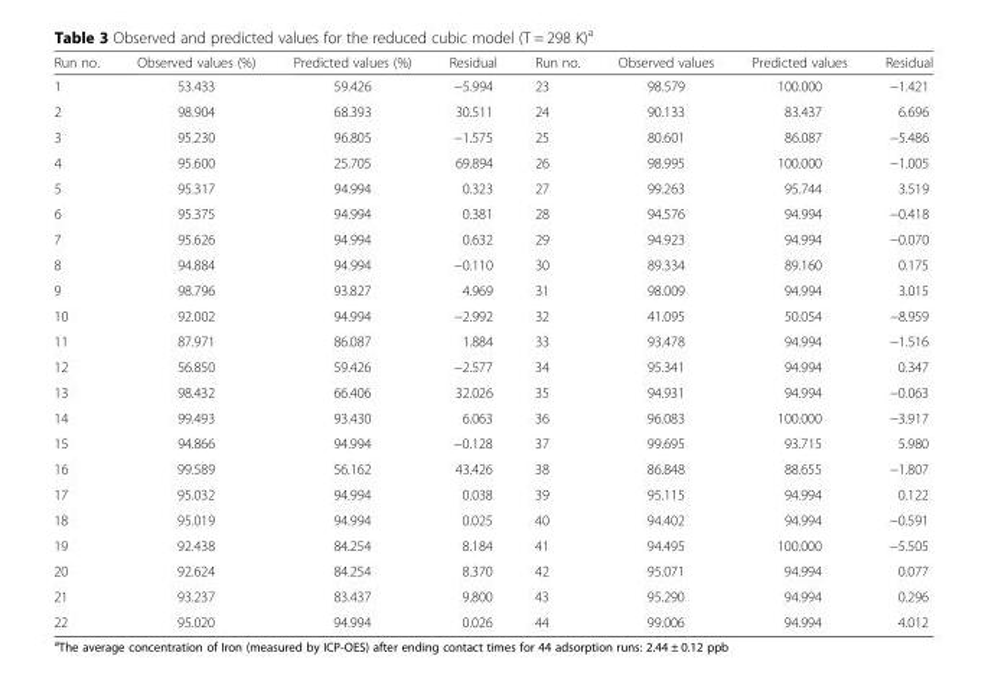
<table><thead><tr><td>Run no.</td><td>Observed values (%)</td><td>Predicted values (%)</td><td>Residual</td><td>Run no.</td><td>Observed values</td><td>Predicted values</td><td>Residual</td></tr></thead><tbody><tr><td>1</td><td>53.433</td><td>59.426</td><td>−5.994</td><td>23</td><td>98.579</td><td>100.000</td><td>−1.421</td></tr><tr><td>2</td><td>98.904</td><td>68.393</td><td>30.511</td><td>24</td><td>90.133</td><td>83.437</td><td>6.696</td></tr><tr><td>3</td><td>95.230</td><td>96.805</td><td>−1.575</td><td>25</td><td>80.601</td><td>86.087</td><td>−5.486</td></tr><tr><td>4</td><td>95.600</td><td>25.705</td><td>69.894</td><td>26</td><td>98.995</td><td>100.000</td><td>−1.005</td></tr><tr><td>5</td><td>95.317</td><td>94.994</td><td>0.323</td><td>27</td><td>99.263</td><td>95.744</td><td>3.519</td></tr><tr><td>6</td><td>95.375</td><td>94.994</td><td>0.381</td><td>28</td><td>94.576</td><td>94.994</td><td>−0.418</td></tr><tr><td>7</td><td>95.626</td><td>94.994</td><td>0.632</td><td>29</td><td>94.923</td><td>94.994</td><td>−0.070</td></tr><tr><td>8</td><td>94.884</td><td>94.994</td><td>−0.110</td><td>30</td><td>89.334</td><td>89.160</td><td>0.175</td></tr><tr><td>9</td><td>98.796</td><td>93.827</td><td>4.969</td><td>31</td><td>98.009</td><td>94.994</td><td>3.015</td></tr><tr><td>10</td><td>92.002</td><td>94.994</td><td>−2.992</td><td>32</td><td>41.095</td><td>50.054</td><td>−8.959</td></tr><tr><td>11</td><td>87.971</td><td>86.087</td><td>1.884</td><td>33</td><td>93.478</td><td>94.994</td><td>−1.516</td></tr><tr><td>12</td><td>56.850</td><td>59.426</td><td>−2.577</td><td>34</td><td>95.341</td><td>94.994</td><td>0.347</td></tr><tr><td>13</td><td>98.432</td><td>66.406</td><td>32.026</td><td>35</td><td>94.931</td><td>94.994</td><td>−0.063</td></tr><tr><td>14</td><td>99.493</td><td>93.430</td><td>6.063</td><td>36</td><td>96.083</td><td>100.000</td><td>−3.917</td></tr><tr><td>15</td><td>94.866</td><td>94.994</td><td>−0.128</td><td>37</td><td>99.695</td><td>93.715</td><td>5.980</td></tr><tr><td>16</td><td>99.589</td><td>56.162</td><td>43.426</td><td>38</td><td>86.848</td><td>88.655</td><td>−1.807</td></tr><tr><td>17</td><td>95.032</td><td>94.994</td><td>0.038</td><td>39</td><td>95.115</td><td>94.994</td><td>0.122</td></tr><tr><td>18</td><td>95.019</td><td>94.994</td><td>0.025</td><td>40</td><td>94.402</td><td>94.994</td><td>−0.591</td></tr><tr><td>19</td><td>92.438</td><td>84.254</td><td>8.184</td><td>41</td><td>94.495</td><td>100.000</td><td>−5.505</td></tr><tr><td>20</td><td>92.624</td><td>84.254</td><td>8.370</td><td>42</td><td>95.071</td><td>94.994</td><td>0.077</td></tr><tr><td>21</td><td>93.237</td><td>83.437</td><td>9.800</td><td>43</td><td>95.290</td><td>94.994</td><td>0.296</td></tr><tr><td>22</td><td>95.020</td><td>94.994</td><td>0.026</td><td>44</td><td>99.006</td><td>94.994</td><td>4.012</td></tr></tbody></table>